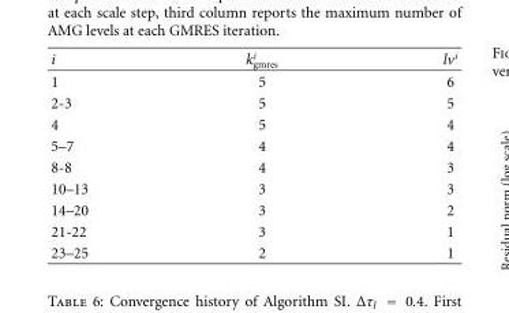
<table><thead><tr><td>i</td><td>ki gmres</td><td>lv<sup>i</sup></td></tr></thead><tbody><tr><td>1</td><td>5</td><td>6</td></tr><tr><td>2-3</td><td>5</td><td>5</td></tr><tr><td>4</td><td>5</td><td>4</td></tr><tr><td>5–7</td><td>4</td><td>4</td></tr><tr><td>8-8</td><td>4</td><td>3</td></tr><tr><td>10–13</td><td>3</td><td>3</td></tr><tr><td>14–20</td><td>3</td><td>2</td></tr><tr><td>21-22</td><td>3</td><td>1</td></tr><tr><td>23–25</td><td>2</td><td>1</td></tr></tbody></table>